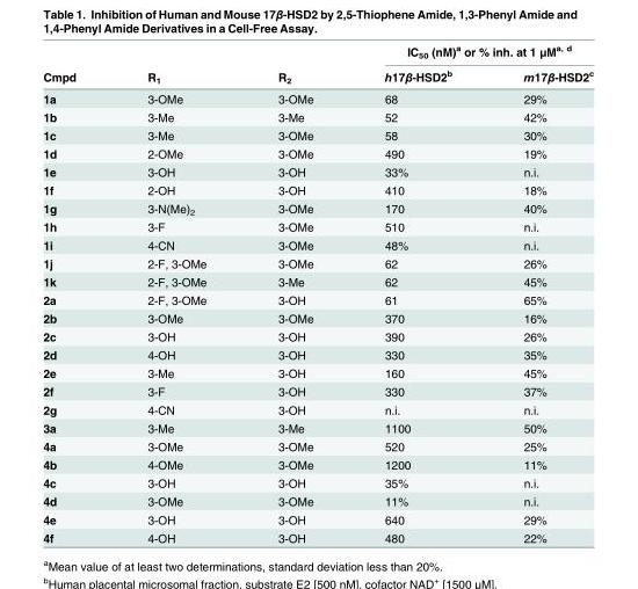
<table><thead><tr><td rowspan="2">Cmpd</td><td rowspan="2">R<sub>1</sub></td><td rowspan="2">R<sub>2</sub></td><td colspan="2">IC<sub>50</sub> (nM)<sup>a</sup> or % inh. at 1 μM<sup>a, d</sup></td></tr><tr><td>h17β-HSD2<sup>b</sup></td><td>m17β-HSD2<sup>c</sup></td></tr></thead><tbody><tr><td>1a</td><td>3-OMe</td><td>3-OMe</td><td>68</td><td>29%</td></tr><tr><td>1b</td><td>3-Me</td><td>3-Me</td><td>52</td><td>42%</td></tr><tr><td>1c</td><td>3-Me</td><td>3-OMe</td><td>58</td><td>30%</td></tr><tr><td>1d</td><td>2-OMe</td><td>3-OMe</td><td>490</td><td>19%</td></tr><tr><td>1e</td><td>3-OH</td><td>3-OH</td><td>33%</td><td>n.i.</td></tr><tr><td>1f</td><td>2-OH</td><td>3-OH</td><td>410</td><td>18%</td></tr><tr><td>1g</td><td>3-N(Me)<sub>2</sub></td><td>3-OMe</td><td>170</td><td>40%</td></tr><tr><td>1h</td><td>3-F</td><td>3-OMe</td><td>510</td><td>n.i.</td></tr><tr><td>1i</td><td>4-CN</td><td>3-OMe</td><td>48%</td><td>n.i.</td></tr><tr><td>1j</td><td>2-F, 3-OMe</td><td>3-OMe</td><td>62</td><td>26%</td></tr><tr><td>1k</td><td>2-F, 3-OMe</td><td>3-Me</td><td>62</td><td>45%</td></tr><tr><td>2a</td><td>2-F, 3-OMe</td><td>3-OH</td><td>61</td><td>65%</td></tr><tr><td>2b</td><td>3-OMe</td><td>3-OMe</td><td>370</td><td>16%</td></tr><tr><td>2c</td><td>3-OH</td><td>3-OH</td><td>390</td><td>26%</td></tr><tr><td>2d</td><td>4-OH</td><td>3-OH</td><td>330</td><td>35%</td></tr><tr><td>2e</td><td>3-Me</td><td>3-OH</td><td>160</td><td>45%</td></tr><tr><td>2f</td><td>3-F</td><td>3-OH</td><td>330</td><td>37%</td></tr><tr><td>2g</td><td>4-CN</td><td>3-OH</td><td>n.i.</td><td>n.i.</td></tr><tr><td>3a</td><td>3-Me</td><td>3-Me</td><td>1100</td><td>50%</td></tr><tr><td>4a</td><td>3-OMe</td><td>3-OMe</td><td>520</td><td>25%</td></tr><tr><td>4b</td><td>4-OMe</td><td>3-OMe</td><td>1200</td><td>11%</td></tr><tr><td>4c</td><td>3-OH</td><td>3-OH</td><td>35%</td><td>n.i.</td></tr><tr><td>4d</td><td>3-OMe</td><td>3-OMe</td><td>11%</td><td>n.i.</td></tr><tr><td>4e</td><td>3-OH</td><td>3-OH</td><td>640</td><td>29%</td></tr><tr><td>4f</td><td>4-OH</td><td>3-OH</td><td>480</td><td>22%</td></tr></tbody></table>